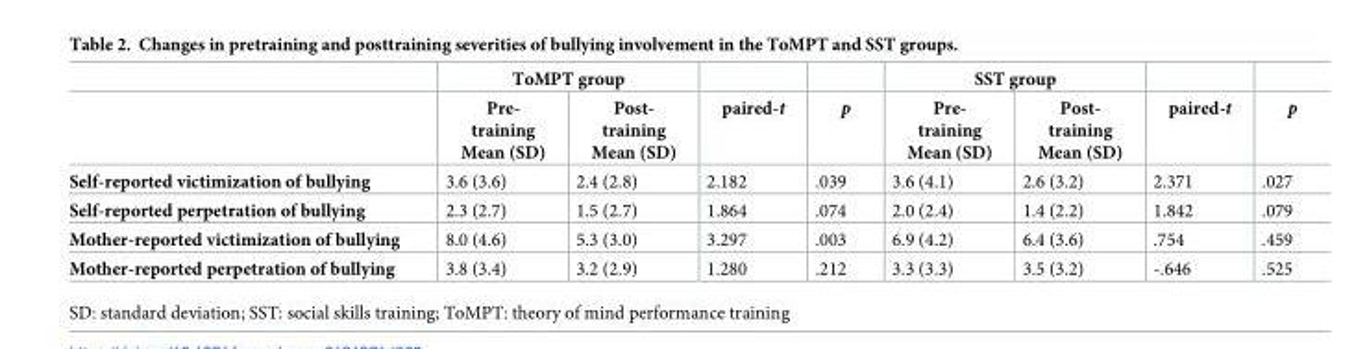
<table><thead><tr><td rowspan="2"></td><td colspan="2">ToMPT group</td><td rowspan="2">paired-t</td><td rowspan="2">p</td><td colspan="2">SST group</td><td rowspan="2">paired-t</td><td rowspan="2">p</td></tr><tr><td>Pre- training Mean (SD)</td><td>Post- training Mean (SD)</td><td>Pre- training Mean (SD)</td><td>Post- training Mean (SD)</td></tr></thead><tbody><tr><td>Self-reported victimization of bullying</td><td>3.6 (3.6)</td><td>2.4 (2.8)</td><td>2.182</td><td>.039</td><td>3.6 (4.1)</td><td>2.6 (3.2)</td><td>2.371</td><td>.027</td></tr><tr><td>Self-reported perpetration of bullying</td><td>2.3 (2.7)</td><td>1.5 (2.7)</td><td>1.864</td><td>.074</td><td>2.0 (2.4)</td><td>1.4 (2.2)</td><td>1.842</td><td>.079</td></tr><tr><td>Mother-reported victimization of bullying</td><td>8.0 (4.6)</td><td>5.3 (3.0)</td><td>3.297</td><td>.003</td><td>6.9 (4.2)</td><td>6.4 (3.6)</td><td>.754</td><td>.459</td></tr><tr><td>Mother-reported perpetration of bullying</td><td>3.8 (3.4)</td><td>3.2 (2.9)</td><td>1.280</td><td>.212</td><td>3.3 (3.3)</td><td>3.5 (3.2)</td><td>-.646</td><td>.525</td></tr></tbody></table>